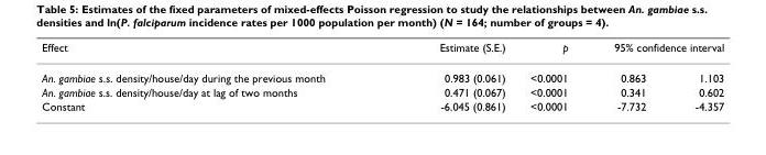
<table><thead><tr><td rowspan="2">Effect An. gambiae s.s. density/house/day during the previous month</td><td rowspan="2">Estimate (S.E.) 0.983 (0.061)</td><td rowspan="2">p &lt;0.0001</td><td colspan="2">95% confidence interval</td></tr><tr><td>0.863</td><td>1.103</td></tr></thead><tbody><tr><td>An. gambiae s.s. density/house/day at lag of two months</td><td>0.471 (0.067)</td><td>&lt;0.0001</td><td>0.341</td><td>0.602</td></tr><tr><td>Constant</td><td>-6.045 (0.861)</td><td>&lt;0.0001</td><td>-7.732</td><td>-4.357</td></tr></tbody></table>